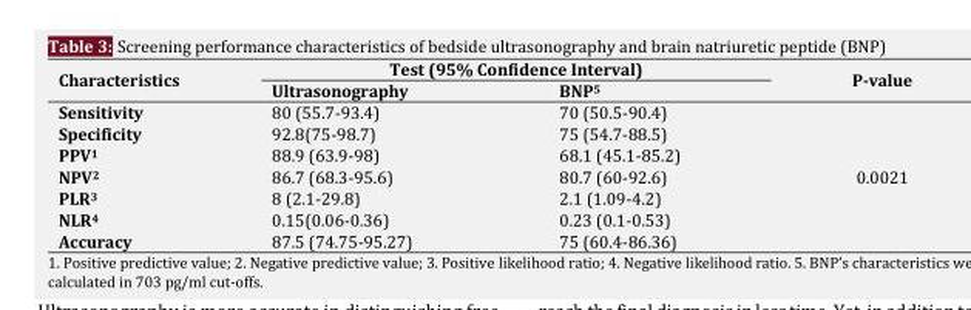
<table><thead><tr><td rowspan="2">Characteristics</td><td colspan="2">Test (95% Confidence Interval)</td><td rowspan="2">P-value</td></tr><tr><td>Ultrasonography</td><td>BNP<sup>5</sup></td></tr></thead><tbody><tr><td>Sensitivity</td><td>80 (55.7-93.4)</td><td>70 (50.5-90.4)</td><td rowspan="7">0.0021</td></tr><tr><td>Specificity</td><td>92.8(75-98.7)</td><td>75 (54.7-88.5)</td></tr><tr><td>PPV1</td><td>88.9 (63.9-98)</td><td>68.1 (45.1-85.2)</td></tr><tr><td>NPV2</td><td>86.7 (68.3-95.6)</td><td>80.7 (60-92.6)</td></tr><tr><td>PLR3</td><td>8 (2.1-29.8)</td><td>2.1 (1.09-4.2)</td></tr><tr><td>NLR4</td><td>0.15(0.06-0.36)</td><td>0.23 (0.1-0.53)</td></tr><tr><td>Accuracy</td><td>87.5 (74.75-95.27)</td><td>75 (60.4-86.36)</td></tr></tbody></table>